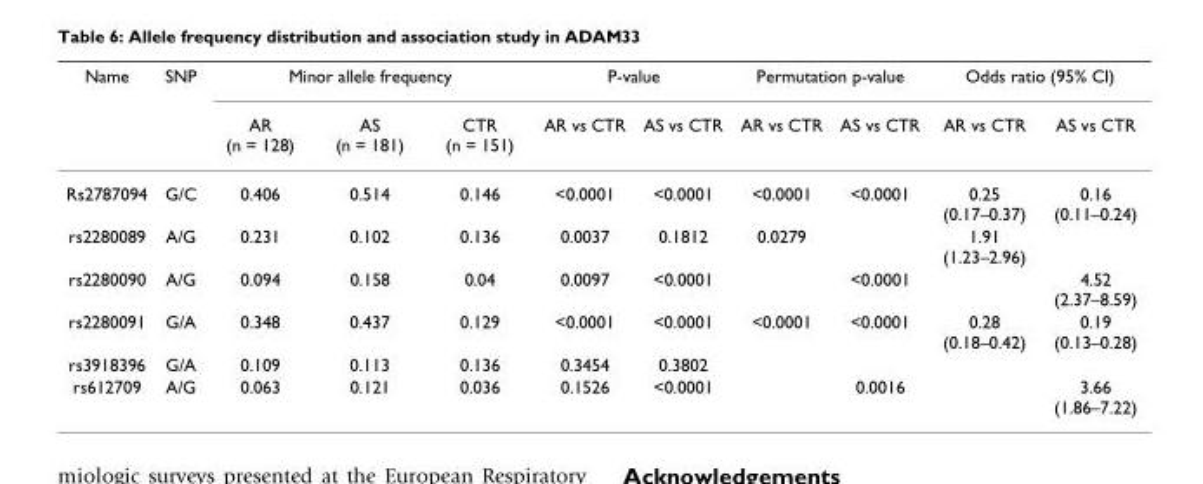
<table><thead><tr><td rowspan="2">Name</td><td rowspan="2">SNP</td><td colspan="3">Minor allele frequency</td><td colspan="2">P-value</td><td colspan="2">Permutation p-value</td><td colspan="2">Odds ratio (95% CI)</td></tr><tr><td>AR (n = 128)</td><td>AS (n = 181)</td><td>CTR (n = 151)</td><td>AR vs CTR</td><td>AS vs CTR</td><td>AR vs CTR</td><td>AS vs CTR</td><td>AR vs CTR</td><td>AS vs CTR</td></tr></thead><tbody><tr><td>Rs2787094</td><td>G/C</td><td>0.406</td><td>0.514</td><td>0.146</td><td>&lt;0.0001</td><td>&lt;0.0001</td><td>&lt;0.0001</td><td>&lt;0.0001</td><td>0.25 (0.17–0.37)</td><td>0.16 (0.11–0.24)</td></tr><tr><td>rs2280089</td><td>A/G</td><td>0.231</td><td>0.102</td><td>0.136</td><td>0.0037</td><td>0.1812</td><td>0.0279</td><td></td><td>1.91 (1.23–2.96)</td><td></td></tr><tr><td>rs2280090</td><td>A/G</td><td>0.094</td><td>0.158</td><td>0.04</td><td>0.0097</td><td>&lt;0.0001</td><td></td><td>&lt;0.0001</td><td></td><td>4.52 (2.37–8.59)</td></tr><tr><td>rs2280091</td><td>G/A</td><td>0.348</td><td>0.437</td><td>0.129</td><td>&lt;0.0001</td><td>&lt;0.0001</td><td>&lt;0.0001</td><td>&lt;0.0001</td><td>0.28 (0.18–0.42)</td><td>0.19 (0.13–0.28)</td></tr><tr><td>rs3918396</td><td>G/A</td><td>0.109</td><td>0.113</td><td>0.136</td><td>0.3454</td><td>0.3802</td><td></td><td></td><td></td><td></td></tr><tr><td>rs612709</td><td>A/G</td><td>0.063</td><td>0.121</td><td>0.036</td><td>0.1526</td><td>&lt;0.0001</td><td></td><td>0.0016</td><td></td><td>3.66 (1.86–7.22)</td></tr></tbody></table>